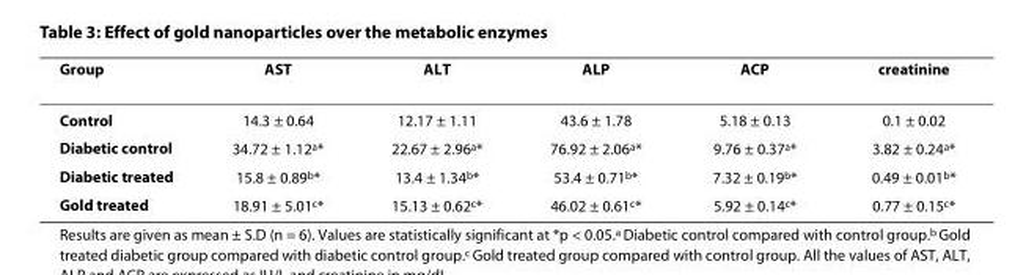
<table><thead><tr><td>Group</td><td>AST</td><td>ALT</td><td>ALP</td><td>ACP</td><td>creatinine</td></tr></thead><tbody><tr><td>Control</td><td>14.3 ± 0.64</td><td>12.17 ± 1.11</td><td>43.6 ± 1.78</td><td>5.18 ± 0.13</td><td>0.1 ± 0.02</td></tr><tr><td>Diabetic control</td><td>34.72 ± 1.12<sup>a</sup>*</td><td>22.67 ± 2.96<sup>a</sup>*</td><td>76.92 ± 2.06<sup>a</sup>*</td><td>9.76 ± 0.37<sup>a</sup>*</td><td>3.82 ± 0.24<sup>a</sup>*</td></tr><tr><td>Diabetic treated</td><td>15.8 ± 0.89<sup>b</sup>*</td><td>13.4 ± 1.34<sup>b</sup>*</td><td>53.4 ± 0.71<sup>b</sup>*</td><td>7.32 ± 0.19<sup>b</sup>*</td><td>0.49 ± 0.01<sup>b</sup>*</td></tr><tr><td>Gold treated</td><td>18.91 ± 5.01<sup>c</sup>*</td><td>15.13 ± 0.62<sup>c</sup>*</td><td>46.02 ± 0.61<sup>c</sup>*</td><td>5.92 ± 0.14<sup>c</sup>*</td><td>0.77 ± 0.15<sup>c</sup>*</td></tr></tbody></table>